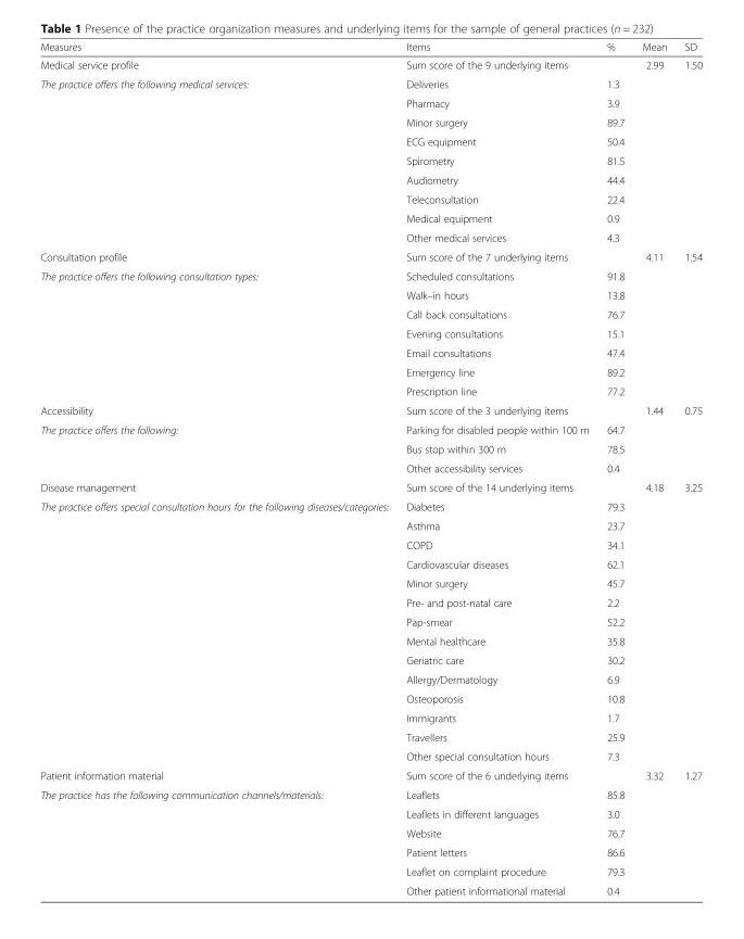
<table><thead><tr><td>Measures</td><td>Items</td><td>%</td><td>Mean</td><td>SD</td></tr></thead><tbody><tr><td>Medical service profile</td><td>Sum score of the 9 underlying items</td><td></td><td>2.99</td><td>1.50</td></tr><tr><td rowspan="9">The practice offers the following medical services:</td><td>Deliveries</td><td>1.3</td><td></td><td></td></tr><tr><td>Pharmacy</td><td>3.9</td><td></td><td></td></tr><tr><td>Minor surgery</td><td>89.7</td><td></td><td></td></tr><tr><td>ECG equipment</td><td>50.4</td><td></td><td></td></tr><tr><td>Spirometry</td><td>81.5</td><td></td><td></td></tr><tr><td>Audiometry</td><td>44.4</td><td></td><td></td></tr><tr><td>Teleconsultation</td><td>22.4</td><td></td><td></td></tr><tr><td>Medical equipment</td><td>0.9</td><td></td><td></td></tr><tr><td>Other medical services</td><td>4.3</td><td></td><td></td></tr><tr><td>Consultation profile</td><td>Sum score of the 7 underlying items</td><td></td><td>4.11</td><td>1.54</td></tr><tr><td rowspan="7">The practice offers the following consultation types:</td><td>Scheduled consultations</td><td>91.8</td><td></td><td></td></tr><tr><td>Walk–in hours</td><td>13.8</td><td></td><td></td></tr><tr><td>Call back consultations</td><td>76.7</td><td></td><td></td></tr><tr><td>Evening consultations</td><td>15.1</td><td></td><td></td></tr><tr><td>Email consultations</td><td>47.4</td><td></td><td></td></tr><tr><td>Emergency line</td><td>89.2</td><td></td><td></td></tr><tr><td>Prescription line</td><td>77.2</td><td></td><td></td></tr><tr><td>Accessibility</td><td>Sum score of the 3 underlying items</td><td></td><td>1.44</td><td>0.75</td></tr><tr><td rowspan="3">The practice offers the following:</td><td>Parking for disabled people within 100 m</td><td>64.7</td><td></td><td></td></tr><tr><td>Bus stop within 300 m</td><td>78.5</td><td></td><td></td></tr><tr><td>Other accessibility services</td><td>0.4</td><td></td><td></td></tr><tr><td>Disease management</td><td>Sum score of the 14 underlying items</td><td></td><td>4.18</td><td>3.25</td></tr><tr><td rowspan="14">The practice offers special consultation hours for the following diseases/categories:</td><td>Diabetes</td><td>79.3</td><td></td><td></td></tr><tr><td>Asthma</td><td>23.7</td><td></td><td></td></tr><tr><td>COPD</td><td>34.1</td><td></td><td></td></tr><tr><td>Cardiovascular diseases</td><td>62.1</td><td></td><td></td></tr><tr><td>Minor surgery</td><td>45.7</td><td></td><td></td></tr><tr><td>Pre- and post-natal care</td><td>2.2</td><td></td><td></td></tr><tr><td>Pap-smear</td><td>52.2</td><td></td><td></td></tr><tr><td>Mental healthcare</td><td>35.8</td><td></td><td></td></tr><tr><td>Geriatric care</td><td>30.2</td><td></td><td></td></tr><tr><td>Allergy/Dermatology</td><td>6.9</td><td></td><td></td></tr><tr><td>Osteoporosis</td><td>10.8</td><td></td><td></td></tr><tr><td>Immigrants</td><td>1.7</td><td></td><td></td></tr><tr><td>Travellers</td><td>25.9</td><td></td><td></td></tr><tr><td>Other special consultation hours</td><td>7.3</td><td></td><td></td></tr><tr><td>Patient information material</td><td>Sum score of the 6 underlying items</td><td></td><td>3.32</td><td>1.27</td></tr><tr><td rowspan="6">The practice has the following communication channels/materials:</td><td>Leaflets</td><td>85.8</td><td></td><td></td></tr><tr><td>Leaflets in different languages</td><td>3.0</td><td></td><td></td></tr><tr><td>Website</td><td>76.7</td><td></td><td></td></tr><tr><td>Patient letters</td><td>86.6</td><td></td><td></td></tr><tr><td>Leaflet on complaint procedure</td><td>79.3</td><td></td><td></td></tr><tr><td>Other patient informational material</td><td>0.4</td><td></td><td></td></tr></tbody></table>